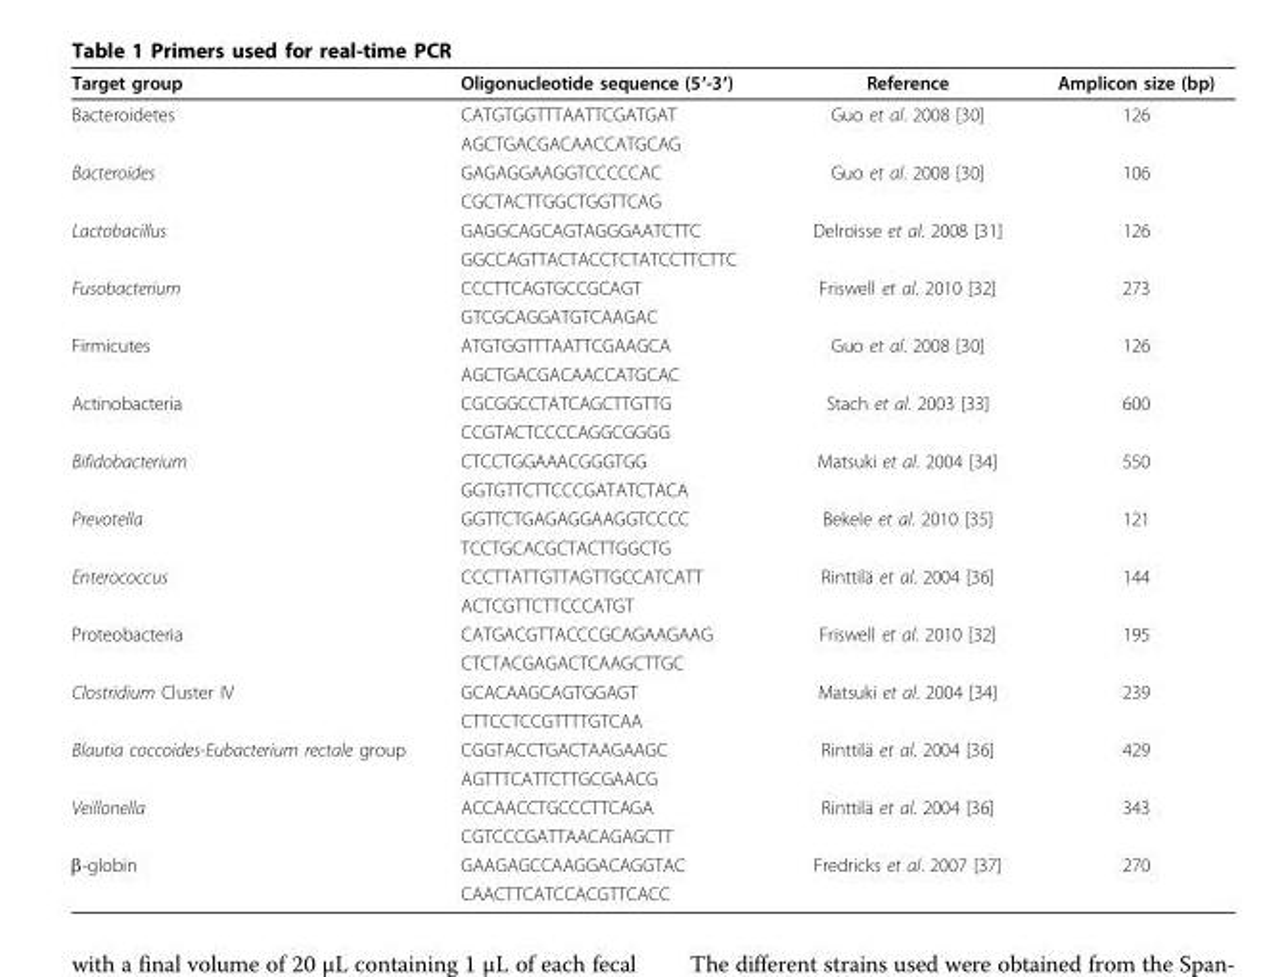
<table><thead><tr><td>Target group</td><td>Oligonucleotide sequence (5′-3′)</td><td>Reference</td><td>Amplicon size (bp)</td></tr></thead><tbody><tr><td rowspan="2">Bacteroidetes</td><td>CATGTGGTTTAATTCGATGAT</td><td>Guo et al. 2008 [30]</td><td>126</td></tr><tr><td>AGCTGACGACAACCATGCAG</td><td></td><td></td></tr><tr><td rowspan="2">Bacteroides</td><td>GAGAGGAAGGTCCCCCAC</td><td>Guo et al. 2008 [30]</td><td>106</td></tr><tr><td>CGCTACTTGGCTGGTTCAG</td><td></td><td></td></tr><tr><td rowspan="2">Lactobacillus</td><td>GAGGCAGCAGTAGGGAATCTTC</td><td>Delroisse et al. 2008 [31]</td><td>126</td></tr><tr><td>GGCCAGTTACTACCTCTATCCTTCTTC</td><td></td><td></td></tr><tr><td rowspan="2">Fusobacterium</td><td>CCCTTCAGTGCCGCAGT</td><td>Friswell et al. 2010 [32]</td><td>273</td></tr><tr><td>GTCGCAGGATGTCAAGAC</td><td></td><td></td></tr><tr><td rowspan="2">Firmicutes</td><td>ATGTGGTTTAATTCGAAGCA</td><td>Guo et al. 2008 [30]</td><td>126</td></tr><tr><td>AGCTGACGACAACCATGCAC</td><td></td><td></td></tr><tr><td rowspan="2">Actinobacteria</td><td>CGCGGCCTATCAGCTTGTTG</td><td>Stach et al. 2003 [33]</td><td>600</td></tr><tr><td>CCGTACTCCCCAGGCGGGG</td><td></td><td></td></tr><tr><td rowspan="2">Bifidobacterium</td><td>CTCCTGGAAACGGGTGG</td><td>Matsuki et al. 2004 [34]</td><td>550</td></tr><tr><td>GGTGTTCTTCCCGATATCTACA</td><td></td><td></td></tr><tr><td rowspan="2">Prevotella</td><td>GGTTCTGAGAGGAAGGTCCCC</td><td>Bekele et al. 2010 [35]</td><td>121</td></tr><tr><td>TCCTGCACGCTACTTGGCTG</td><td></td><td></td></tr><tr><td rowspan="2">Enterococcus</td><td>CCCTTATTGTTAGTTGCCATCATT</td><td>Rinttilä et al. 2004 [36]</td><td>144</td></tr><tr><td>ACTCGTTCTTCCCATGT</td><td></td><td></td></tr><tr><td rowspan="2">Proteobacteria</td><td>CATGACGTTACCCGCAGAAGAAG</td><td>Friswell et al. 2010 [32]</td><td>195</td></tr><tr><td>CTCTACGAGACTCAAGCTTGC</td><td></td><td></td></tr><tr><td rowspan="2">Clostridium Cluster IV</td><td>GCACAAGCAGTGGAGT</td><td>Matsuki et al. 2004 [34]</td><td>239</td></tr><tr><td>CTTCCTCCGTTTTGTCAA</td><td></td><td></td></tr><tr><td rowspan="2">Blautia coccoides-Eubacterium rectale group</td><td>CGGTACCTGACTAAGAAGC</td><td>Rinttilä et al. 2004 [36]</td><td>429</td></tr><tr><td>AGTTTCATTCTTGCGAACG</td><td></td><td></td></tr><tr><td rowspan="2">Veillonella</td><td>ACCAACCTGCCCTTCAGA</td><td>Rinttilä et al. 2004 [36]</td><td>343</td></tr><tr><td>CGTCCCGATTAACAGAGCTT</td><td></td><td></td></tr><tr><td rowspan="2">β-globin</td><td>GAAGAGCCAAGGACAGGTAC</td><td>Fredricks et al. 2007 [37]</td><td>270</td></tr><tr><td>CAACTTCATCCACGTTCACC</td><td></td><td></td></tr></tbody></table>